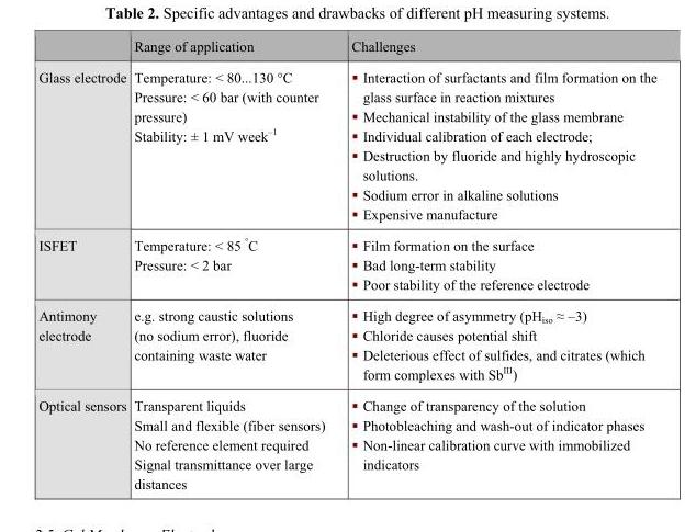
<table><thead><tr><td></td><td>Range of application</td><td>Challenges</td></tr></thead><tbody><tr><td>Glass electrode</td><td>Temperature: &lt; 80...130 °C Pressure: &lt; 60 bar (with counter pressure) Stability: ± 1 mV week<sup>–1</sup></td><td>� Interaction of surfactants and film formation on the glass surface in reaction mixtures � Mechanical instability of the glass membrane � Individual calibration of each electrode; � Destruction by fluoride and highly hydroscopic solutions. � Sodium error in alkaline solutions � Expensive manufacture</td></tr><tr><td>ISFET</td><td>Temperature: &lt; 85 °C Pressure: &lt; 2 bar</td><td>� Film formation on the surface � Bad long-term stability � Poor stability of the reference electrode</td></tr><tr><td rowspan="2">Antimony electrode Optical sensors</td><td>e.g. strong caustic solutions (no sodium error), fluoride containing waste water</td><td>� High degree of asymmetry (pHiso ≈ –3) � Chloride causes potential shift � Deleterious effect of sulfides, and citrates (which form complexes with SbIII)</td></tr><tr><td>Transparent liquids Small and flexible (fiber sensors) No reference element required Signal transmittance over large distances</td><td>� Change of transparency of the solution � Photobleaching and wash-out of indicator phases � Non-linear calibration curve with immobilized indicators</td></tr></tbody></table>